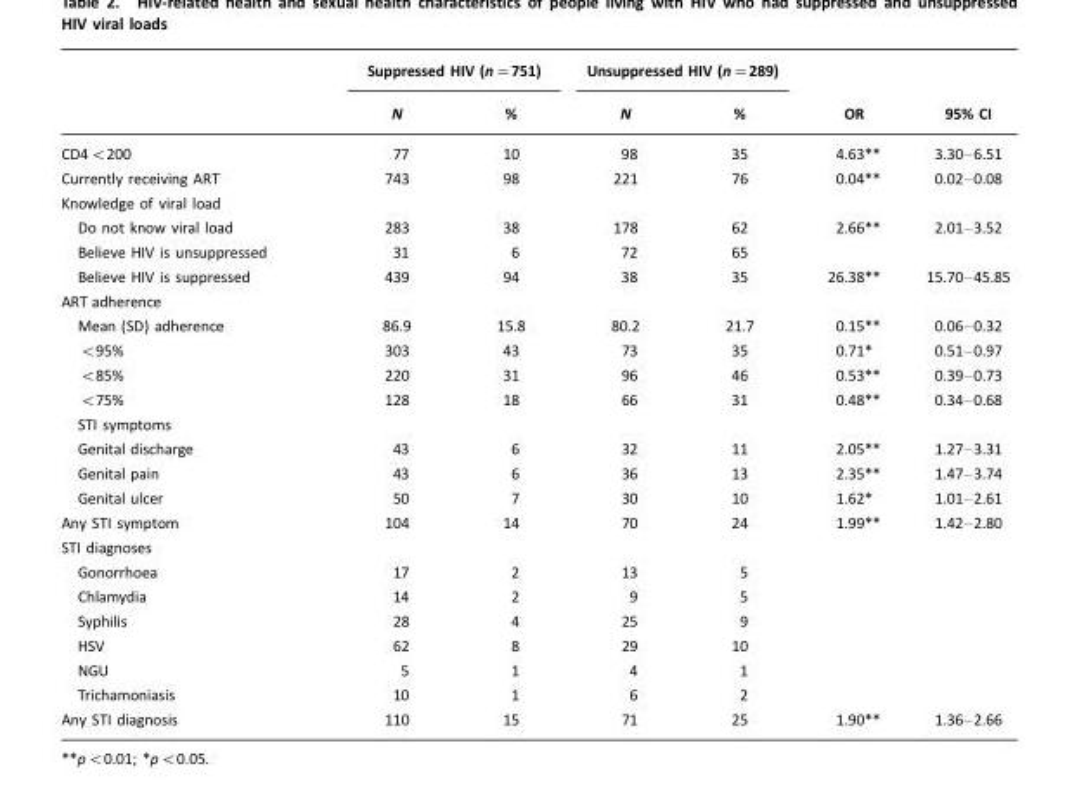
<table><thead><tr><td rowspan="2"></td><td colspan="2">Suppressed HIV (n=751)</td><td colspan="2">Unsuppressed HIV (n=289)</td><td rowspan="2">OR</td><td rowspan="2">95% CI</td></tr><tr><td>N</td><td>%</td><td>N</td><td>%</td></tr></thead><tbody><tr><td>CD4&lt;200</td><td>77</td><td>10</td><td>98</td><td>35</td><td>4.63**</td><td>3.30–6.51</td></tr><tr><td>Currently receiving ART</td><td>743</td><td>98</td><td>221</td><td>76</td><td>0.04**</td><td>0.02–0.08</td></tr><tr><td colspan="7">Knowledge of viral load</td></tr><tr><td>Do not know viral load</td><td>283</td><td>38</td><td>178</td><td>62</td><td>2.66**</td><td>2.01–3.52</td></tr><tr><td>Believe HIV is unsuppressed</td><td>31</td><td>6</td><td>72</td><td>65</td><td></td><td></td></tr><tr><td>Believe HIV is suppressed</td><td>439</td><td>94</td><td>38</td><td>35</td><td>26.38**</td><td>15.70–45.85</td></tr><tr><td colspan="7">ART adherence</td></tr><tr><td>Mean (SD) adherence</td><td>86.9</td><td>15.8</td><td>80.2</td><td>21.7</td><td>0.15**</td><td>0.06–0.32</td></tr><tr><td>&lt;95%</td><td>303</td><td>43</td><td>73</td><td>35</td><td>0.71*</td><td>0.51–0.97</td></tr><tr><td>&lt;85%</td><td>220</td><td>31</td><td>96</td><td>46</td><td>0.53**</td><td>0.39–0.73</td></tr><tr><td>&lt;75%</td><td>128</td><td>18</td><td>66</td><td>31</td><td>0.48**</td><td>0.34–0.68</td></tr><tr><td colspan="7">STI symptoms</td></tr><tr><td>Genital discharge</td><td>43</td><td>6</td><td>32</td><td>11</td><td>2.05**</td><td>1.27–3.31</td></tr><tr><td>Genital pain</td><td>43</td><td>6</td><td>36</td><td>13</td><td>2.35**</td><td>1.47–3.74</td></tr><tr><td>Genital ulcer</td><td>50</td><td>7</td><td>30</td><td>10</td><td>1.62*</td><td>1.01–2.61</td></tr><tr><td>Any STI symptom</td><td>104</td><td>14</td><td>70</td><td>24</td><td>1.99**</td><td>1.42–2.80</td></tr><tr><td colspan="7">STI diagnoses</td></tr><tr><td>Gonorrhoea</td><td>17</td><td>2</td><td>13</td><td>5</td><td></td><td></td></tr><tr><td>Chlamydia</td><td>14</td><td>2</td><td>9</td><td>5</td><td></td><td></td></tr><tr><td>Syphilis</td><td>28</td><td>4</td><td>25</td><td>9</td><td></td><td></td></tr><tr><td>HSV</td><td>62</td><td>8</td><td>29</td><td>10</td><td></td><td></td></tr><tr><td>NGU</td><td>5</td><td>1</td><td>4</td><td>1</td><td></td><td></td></tr><tr><td>Trichamoniasis</td><td>10</td><td>1</td><td>6</td><td>2</td><td></td><td></td></tr><tr><td>Any STI diagnosis</td><td>110</td><td>15</td><td>71</td><td>25</td><td>1.90**</td><td>1.36–2.66</td></tr></tbody></table>